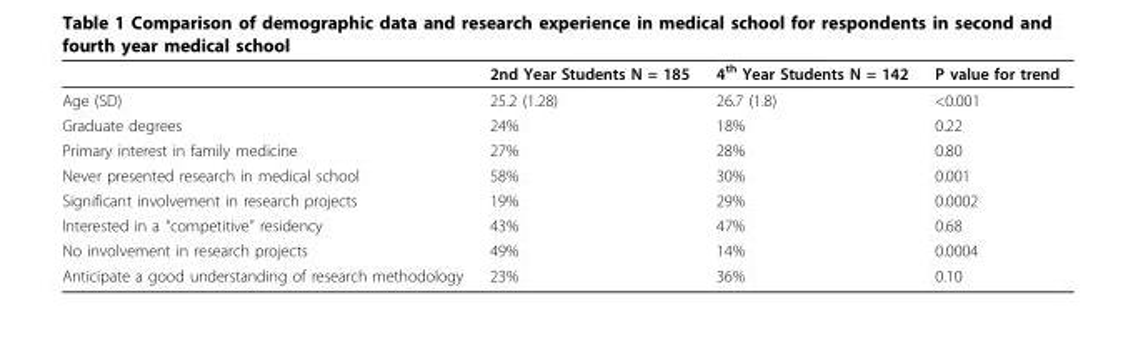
<table><thead><tr><td></td><td>2nd Year Students N = 185</td><td>4<sup>th</sup> Year Students N = 142</td><td>P value for trend</td></tr></thead><tbody><tr><td>Age (SD)</td><td>25.2 (1.28)</td><td>26.7 (1.8)</td><td>&lt;0.001</td></tr><tr><td>Graduate degrees</td><td>24%</td><td>18%</td><td>0.22</td></tr><tr><td>Primary interest in family medicine</td><td>27%</td><td>28%</td><td>0.80</td></tr><tr><td>Never presented research in medical school</td><td>58%</td><td>30%</td><td>0.001</td></tr><tr><td>Significant involvement in research projects</td><td>19%</td><td>29%</td><td>0.0002</td></tr><tr><td>Interested in a “competitive” residency</td><td>43%</td><td>47%</td><td>0.68</td></tr><tr><td>No involvement in research projects</td><td>49%</td><td>14%</td><td>0.0004</td></tr><tr><td>Anticipate a good understanding of research methodology</td><td>23%</td><td>36%</td><td>0.10</td></tr></tbody></table>